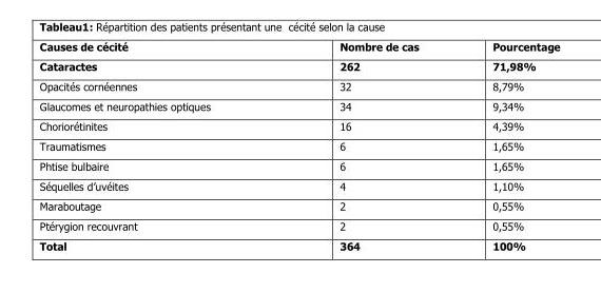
<table><thead><tr><td>Causes de cécité</td><td>Nombre de cas</td><td>Pourcentage</td></tr></thead><tbody><tr><td>Cataractes</td><td>262</td><td>71,98%</td></tr><tr><td>Opacités cornéennes</td><td>32</td><td>8,79%</td></tr><tr><td>Glaucomes et neuropathies optiques</td><td>34</td><td>9,34%</td></tr><tr><td>Choriorétinites</td><td>16</td><td>4,39%</td></tr><tr><td>Traumatismes</td><td>6</td><td>1,65%</td></tr><tr><td>Phtise bulbaire</td><td>6</td><td>1,65%</td></tr><tr><td>Séquelles d’uvéites</td><td>4</td><td>1,10%</td></tr><tr><td>Maraboutage</td><td>2</td><td>0,55%</td></tr><tr><td>Ptérygion recouvrant</td><td>2</td><td>0,55%</td></tr><tr><td>Total</td><td>364</td><td>100%</td></tr></tbody></table>